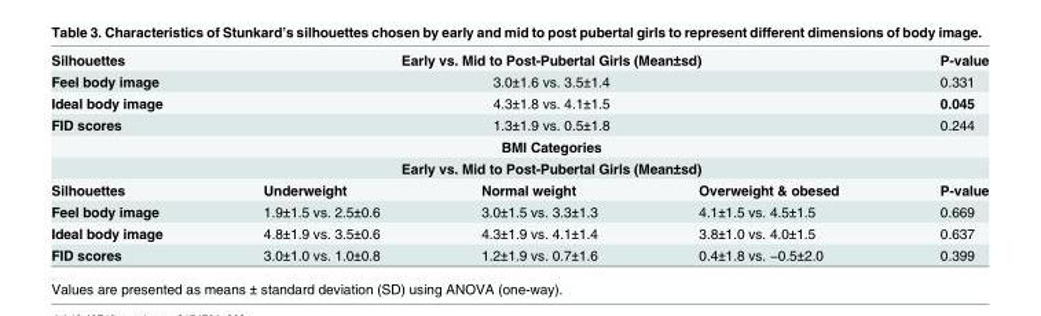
<table><tbody><tr><td>Silhouettes</td><td colspan="3">Early vs. Mid to Post-Pubertal Girls (Mean±sd)</td><td>P-value</td></tr><tr><td>Feel body image</td><td colspan="3">3.0±1.6 vs. 3.5±1.4</td><td>0.331</td></tr><tr><td>Ideal body image</td><td colspan="3">4.3±1.8 vs. 4.1±1.5</td><td>0.045</td></tr><tr><td rowspan="3">FID scores</td><td colspan="3">1.3±1.9 vs. 0.5±1.8</td><td>0.244</td></tr><tr><td colspan="3">BMI Categories</td><td></td></tr><tr><td colspan="3">Early vs. Mid to Post-Pubertal Girls (Mean±sd)</td><td></td></tr><tr><td>Silhouettes</td><td>Underweight</td><td>Normal weight</td><td>Overweight &amp; obesed</td><td>P-value</td></tr><tr><td>Feel body image</td><td>1.9±1.5 vs. 2.5±0.6</td><td>3.0±1.5 vs. 3.3±1.3</td><td>4.1±1.5 vs. 4.5±1.5</td><td>0.669</td></tr><tr><td>Ideal body image</td><td>4.8±1.9 vs. 3.5±0.6</td><td>4.3±1.9 vs. 4.1±1.4</td><td>3.8±1.0 vs. 4.0±1.5</td><td>0.637</td></tr><tr><td>FID scores</td><td>3.0±1.0 vs. 1.0±0.8</td><td>1.2±1.9 vs. 0.7±1.6</td><td>0.4±1.8 vs. −0.5±2.0</td><td>0.399</td></tr></tbody></table>